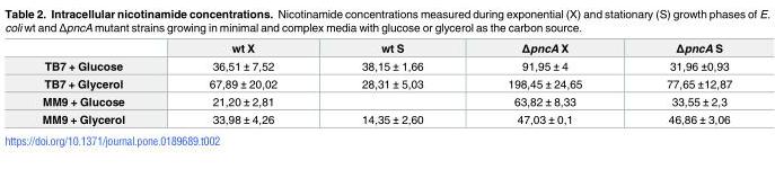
<table><thead><tr><td></td><td>wt X</td><td>wt S</td><td>ΔpncA X</td><td>ΔpncA S</td></tr></thead><tbody><tr><td>TB7 + Glucose</td><td>36,51 ± 7,52</td><td>38,15 ± 1,66</td><td>91,95 ± 4</td><td>31,96 ±0,93</td></tr><tr><td>TB7 + Glycerol</td><td>67,89 ± 20,02</td><td>28,31 ± 5,03</td><td>198,45 ± 24,65</td><td>77,65 ±12,87</td></tr><tr><td>MM9 + Glucose</td><td>21,20 ± 2,81</td><td></td><td>63,82 ± 8,33</td><td>33,55 ± 2,3</td></tr><tr><td>MM9 + Glycerol</td><td>33,98 ± 4,26</td><td>14,35 ± 2,60</td><td>47,03 ± 0,1</td><td>46,86 ± 3,06</td></tr></tbody></table>